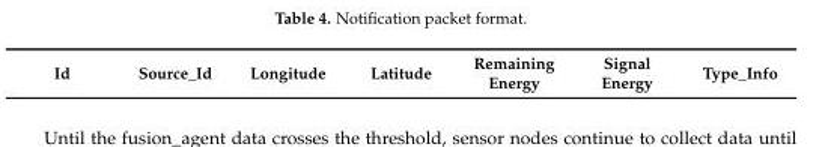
<table><tbody><tr><td>Id</td><td>Source_Id</td><td>Longitude</td><td>Latitude</td><td>Remaining Energy</td><td>Signal Energy</td><td>Type_Info</td></tr></tbody></table>